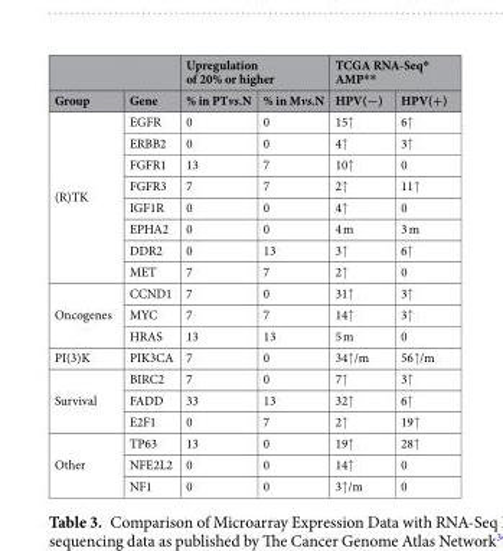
<table><thead><tr><td rowspan="2">Group</td><td rowspan="2">Gene</td><td colspan="2">Upregulation of 20% or higher</td><td colspan="2">TCGA RNA-Seq* AMP**</td></tr><tr><td>% in PTvs.N</td><td>% in Mvs.N</td><td>HPV(−)</td><td>HPV(+)</td></tr></thead><tbody><tr><td rowspan="8">(R)TK</td><td>EGFR</td><td>0</td><td>0</td><td>15↑</td><td>6↑</td></tr><tr><td>ERBB2</td><td>0</td><td>0</td><td>4↑</td><td>3↑</td></tr><tr><td>FGFR1</td><td>13</td><td>7</td><td>10↑</td><td>0</td></tr><tr><td>FGFR3</td><td>7</td><td>7</td><td>2↑</td><td>11↑</td></tr><tr><td>IGF1R</td><td>0</td><td>0</td><td>4↑</td><td>0</td></tr><tr><td>EPHA2</td><td>0</td><td>0</td><td>4 m</td><td>3 m</td></tr><tr><td>DDR2</td><td>0</td><td>13</td><td>3↑</td><td>6↑</td></tr><tr><td>MET</td><td>7</td><td>7</td><td>2↑</td><td>0</td></tr><tr><td rowspan="3">Oncogenes</td><td>CCND1</td><td>7</td><td>0</td><td>31↑</td><td>3↑</td></tr><tr><td>MYC</td><td>7</td><td>7</td><td>14↑</td><td>3↑</td></tr><tr><td>HRAS</td><td>13</td><td>13</td><td>5 m</td><td>0</td></tr><tr><td>PI(3)K</td><td>PIK3CA</td><td>7</td><td>0</td><td>34↑/m</td><td>56↑/m</td></tr><tr><td rowspan="3">Survival</td><td>BIRC2</td><td>7</td><td>0</td><td>7↑</td><td>3↑</td></tr><tr><td>FADD</td><td>33</td><td>13</td><td>32↑</td><td>6↑</td></tr><tr><td>E2F1</td><td>0</td><td>7</td><td>2↑</td><td>19↑</td></tr><tr><td rowspan="3">Other</td><td>TP63</td><td>13</td><td>0</td><td>19↑</td><td>28↑</td></tr><tr><td>NFE2L2</td><td>0</td><td>0</td><td>14↑</td><td>0</td></tr><tr><td>NF1</td><td>0</td><td>0</td><td>3↑/m</td><td>0</td></tr></tbody></table>